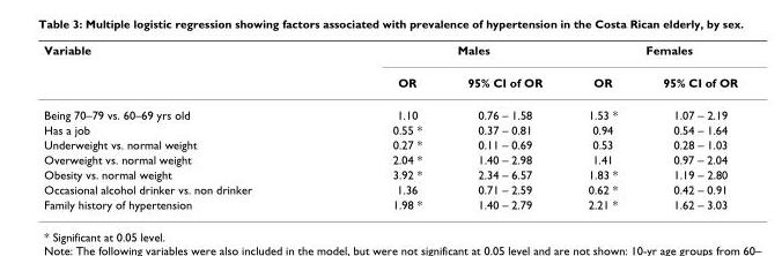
<table><thead><tr><td rowspan="2">Variable</td><td colspan="2">Males</td><td colspan="2">Females</td></tr><tr><td>OR</td><td>95% CI of OR</td><td>OR</td><td>95% CI of OR</td></tr></thead><tbody><tr><td>Being 70–79 vs. 60–69 yrs old</td><td>1.10</td><td>0.76 – 1.58</td><td>1.53 *</td><td>1.07 – 2.19</td></tr><tr><td>Has a job</td><td>0.55 *</td><td>0.37 – 0.81</td><td>0.94</td><td>0.54 – 1.64</td></tr><tr><td>Underweight vs. normal weight</td><td>0.27 *</td><td>0.11 – 0.69</td><td>0.53</td><td>0.28 – 1.03</td></tr><tr><td>Overweight vs. normal weight</td><td>2.04 *</td><td>1.40 – 2.98</td><td>1.41</td><td>0.97 – 2.04</td></tr><tr><td>Obesity vs. normal weight</td><td>3.92 *</td><td>2.34 – 6.57</td><td>1.83 *</td><td>1.19 – 2.80</td></tr><tr><td>Occasional alcohol drinker vs. non drinker</td><td>1.36</td><td>0.71 – 2.59</td><td>0.62 *</td><td>0.42 – 0.91</td></tr><tr><td>Family history of hypertension</td><td>1.98 *</td><td>1.40 – 2.79</td><td>2.21 *</td><td>1.62 – 3.03</td></tr></tbody></table>